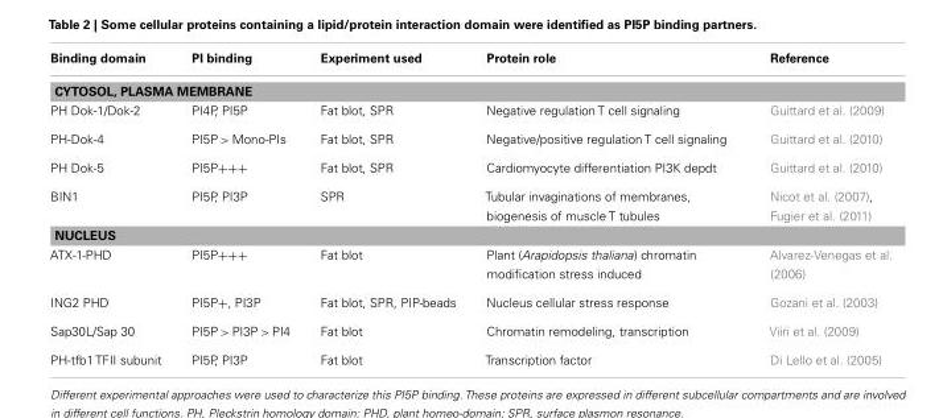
<table><thead><tr><td>Binding domain</td><td>PI binding</td><td>Experiment used</td><td>Protein role</td><td>Reference</td></tr></thead><tbody><tr><td colspan="5">CYTOSOL, PLASMA MEMBRANE</td></tr><tr><td>PH Dok-1/Dok-2</td><td>PI4P, PI5P</td><td>Fat blot, SPR</td><td>Negative regulation T cell signaling</td><td>Guittard et al. (2009)</td></tr><tr><td>PH-Dok-4</td><td>PI5P &gt; Mono-PIs</td><td>Fat blot, SPR</td><td>Negative/positive regulation T cell signaling</td><td>Guittard et al. (2010)</td></tr><tr><td>PH Dok-5</td><td>PI5P+++</td><td>Fat blot, SPR</td><td>Cardiomyocyte differentiation PI3K depdt</td><td>Guittard et al. (2010)</td></tr><tr><td>BIN1</td><td>PI5P, PI3P</td><td>SPR</td><td>Tubular invaginations of membranes, biogenesis of muscle T tubules</td><td>Nicot et al. (2007), Fugier et al. (2011)</td></tr><tr><td colspan="5">NUCLEUS</td></tr><tr><td>ATX-1-PHD</td><td>PI5P+++</td><td>Fat blot</td><td>Plant (Arapidopsis thaliana) chromatin modification stress induced</td><td>Alvarez-Venegas et al. (2006)</td></tr><tr><td>ING2 PHD</td><td>PI5P+, PI3P</td><td>Fat blot, SPR, PIP-beads</td><td>Nucleus cellular stress response</td><td>Gozani et al. (2003)</td></tr><tr><td>Sap30L/Sap 30</td><td>PI5P &gt; PI3P &gt; PI4</td><td>Fat blot</td><td>Chromatin remodeling, transcription</td><td>Viiri et al. (2009)</td></tr><tr><td>PH-tfb1 TFII subunit</td><td>PI5P, PI3P</td><td>Fat blot</td><td>Transcription factor</td><td>Di Lello et al. (2005)</td></tr></tbody></table>